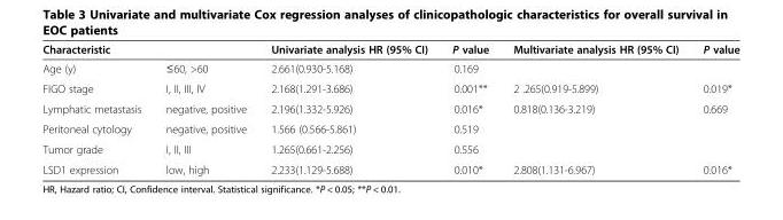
<table><thead><tr><td>Characteristic</td><td></td><td>Univariate analysis HR (95% CI)</td><td>P value</td><td>Multivariate analysis HR (95% CI)</td><td>P value</td></tr></thead><tbody><tr><td>Age (y)</td><td>≤60, &gt;60</td><td>2.661(0.930-5.168)</td><td>0.169</td><td></td><td></td></tr><tr><td>FIGO stage</td><td>I, II, III, IV</td><td>2.168(1.291-3.686)</td><td>0.001**</td><td>2 .265(0.919-5.899)</td><td>0.019*</td></tr><tr><td>Lymphatic metastasis</td><td>negative, positive</td><td>2.196(1.332-5.926)</td><td>0.016*</td><td>0.818(0.136-3.219)</td><td>0.669</td></tr><tr><td>Peritoneal cytology</td><td>negative, positive</td><td>1.566 (0.566-5.861)</td><td>0.519</td><td></td><td></td></tr><tr><td>Tumor grade</td><td>I, II, III</td><td>1.265(0.661-2.256)</td><td>0.556</td><td></td><td></td></tr><tr><td>LSD1 expression</td><td>low, high</td><td>2.233(1.129-5.688)</td><td>0.010*</td><td>2.808(1.131-6.967)</td><td>0.016*</td></tr></tbody></table>